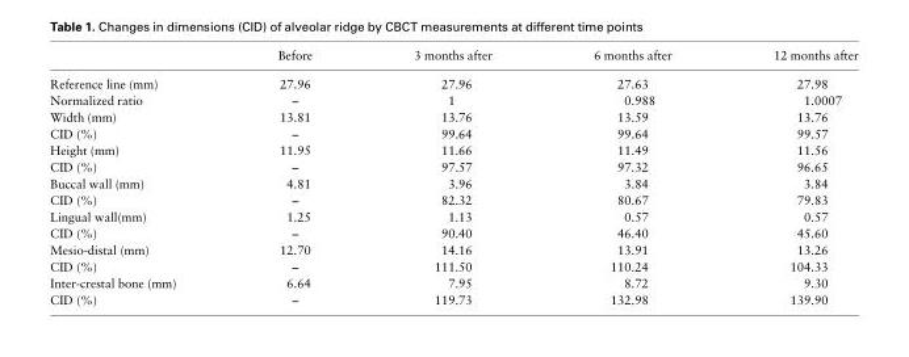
<table><thead><tr><td></td><td>Before</td><td>3 months after</td><td>6 months after</td><td>12 months after</td></tr></thead><tbody><tr><td>Reference line (mm)</td><td>27.96</td><td>27.96</td><td>27.63</td><td>27.98</td></tr><tr><td>Normalized ratio</td><td>–</td><td>1</td><td>0.988</td><td>1.0007</td></tr><tr><td>Width (mm)</td><td>13.81</td><td>13.76</td><td>13.59</td><td>13.76</td></tr><tr><td>CID (%)</td><td>–</td><td>99.64</td><td>99.64</td><td>99.57</td></tr><tr><td>Height (mm)</td><td>11.95</td><td>11.66</td><td>11.49</td><td>11.56</td></tr><tr><td>CID (%)</td><td>–</td><td>97.57</td><td>97.32</td><td>96.65</td></tr><tr><td>Buccal wall (mm)</td><td>4.81</td><td>3.96</td><td>3.84</td><td>3.84</td></tr><tr><td>CID (%)</td><td>–</td><td>82.32</td><td>80.67</td><td>79.83</td></tr><tr><td>Lingual wall(mm)</td><td>1.25</td><td>1.13</td><td>0.57</td><td>0.57</td></tr><tr><td>CID (%)</td><td>–</td><td>90.40</td><td>46.40</td><td>45.60</td></tr><tr><td>Mesio-distal (mm)</td><td>12.70</td><td>14.16</td><td>13.91</td><td>13.26</td></tr><tr><td>CID (%)</td><td>–</td><td>111.50</td><td>110.24</td><td>104.33</td></tr><tr><td>Inter-crestal bone (mm)</td><td>6.64</td><td>7.95</td><td>8.72</td><td>9.30</td></tr><tr><td>CID (%)</td><td>–</td><td>119.73</td><td>132.98</td><td>139.90</td></tr></tbody></table>